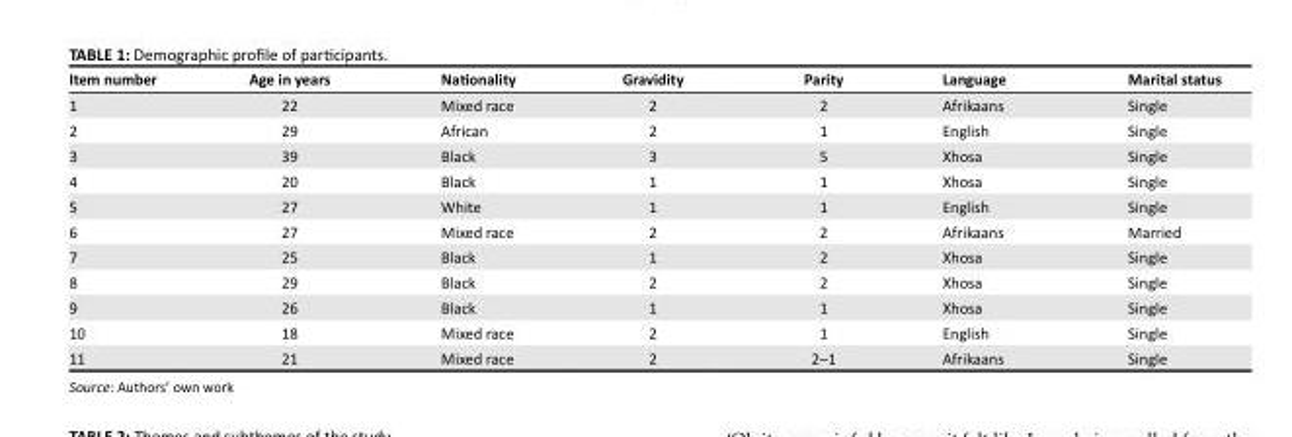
<table><thead><tr><td>Item number</td><td>Age in years</td><td>Nationality</td><td>Gravidity</td><td>Parity</td><td>Language</td><td>Marital status</td></tr></thead><tbody><tr><td>1</td><td>22</td><td>Mixed race</td><td>2</td><td>2</td><td>Afrikaans</td><td>Single</td></tr><tr><td>2</td><td>29</td><td>African</td><td>2</td><td>1</td><td>English</td><td>Single</td></tr><tr><td>3</td><td>39</td><td>Black</td><td>3</td><td>5</td><td>Xhosa</td><td>Single</td></tr><tr><td>4</td><td>20</td><td>Black</td><td>1</td><td>1</td><td>Xhosa</td><td>Single</td></tr><tr><td>5</td><td>27</td><td>White</td><td>1</td><td>1</td><td>English</td><td>Single</td></tr><tr><td>6</td><td>27</td><td>Mixed race</td><td>2</td><td>2</td><td>Afrikaans</td><td>Married</td></tr><tr><td>7</td><td>25</td><td>Black</td><td>1</td><td>2</td><td>Xhosa</td><td>Single</td></tr><tr><td>8</td><td>29</td><td>Black</td><td>2</td><td>2</td><td>Xhosa</td><td>Single</td></tr><tr><td>9</td><td>26</td><td>Black</td><td>1</td><td>1</td><td>Xhosa</td><td>Single</td></tr><tr><td>10</td><td>18</td><td>Mixed race</td><td>2</td><td>1</td><td>English</td><td>Single</td></tr><tr><td>11</td><td>21</td><td>Mixed race</td><td>2</td><td>2–1</td><td>Afrikaans</td><td>Single</td></tr></tbody></table>